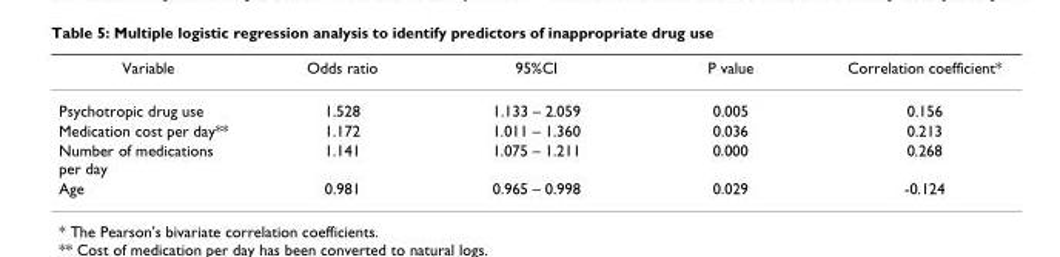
<table><thead><tr><td>Variable</td><td>Odds ratio</td><td>95%CI</td><td>P value</td><td>Correlation coefficient*</td></tr></thead><tbody><tr><td>Psychotropic drug use</td><td>1.528</td><td>1.133 – 2.059</td><td>0.005</td><td>0.156</td></tr><tr><td>Medication cost per day**</td><td>1.172</td><td>1.011 – 1.360</td><td>0.036</td><td>0.213</td></tr><tr><td>Number of medications per day</td><td>1.141</td><td>1.075 – 1.211</td><td>0.000</td><td>0.268</td></tr><tr><td>Age</td><td>0.981</td><td>0.965 – 0.998</td><td>0.029</td><td>-0.124</td></tr></tbody></table>